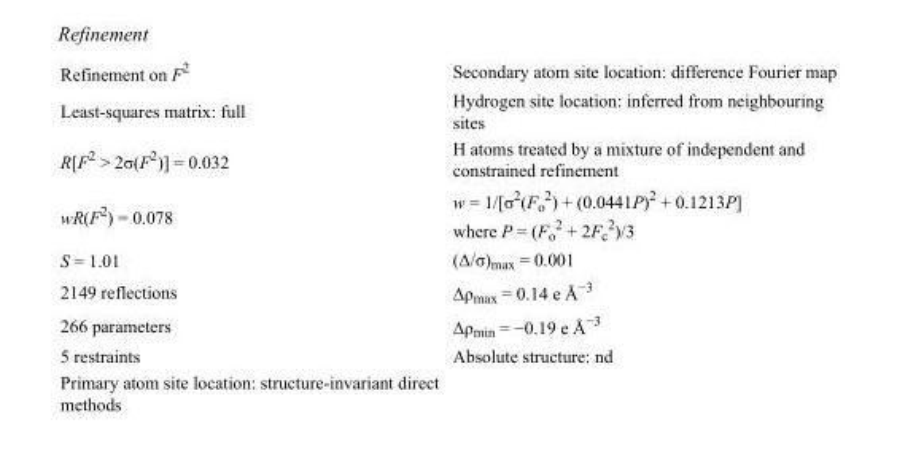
<table><tbody><tr><td>Refinement on F<sup>2</sup></td><td>Secondary atom site location: difference Fourier map</td></tr><tr><td>Least-squares matrix: full</td><td>Hydrogen site location: inferred from neighbouring sites</td></tr><tr><td>R[F<sup>2</sup> &gt; 2σ(F<sup>2</sup>)] = 0.032</td><td>H atoms treated by a mixture of independent and constrained refinement</td></tr><tr><td>wR(F<sup>2</sup>) = 0.078</td><td>w = 1/[σ<sup>2</sup>(F<sub>o</sub> <sup>2</sup>) + (0.0441P)<sup>2</sup> + 0.1213P] where P = (F<sub>o</sub> <sup>2</sup> + 2F<sub>c</sub> <sup>2</sup>)/3</td></tr><tr><td>S = 1.01</td><td>(Δ/σ)<sub>max</sub> = 0.001</td></tr><tr><td>2149 reflections</td><td>Δρ<sub>max</sub> = 0.14 e Å<sup>−3</sup></td></tr><tr><td>266 parameters</td><td>Δρ<sub>min</sub> = −0.19 e Å<sup>−3</sup></td></tr><tr><td>5 restraints</td><td>Absolute structure: nd</td></tr><tr><td>Primary atom site location: structure-invariant direct methods</td><td></td></tr></tbody></table>